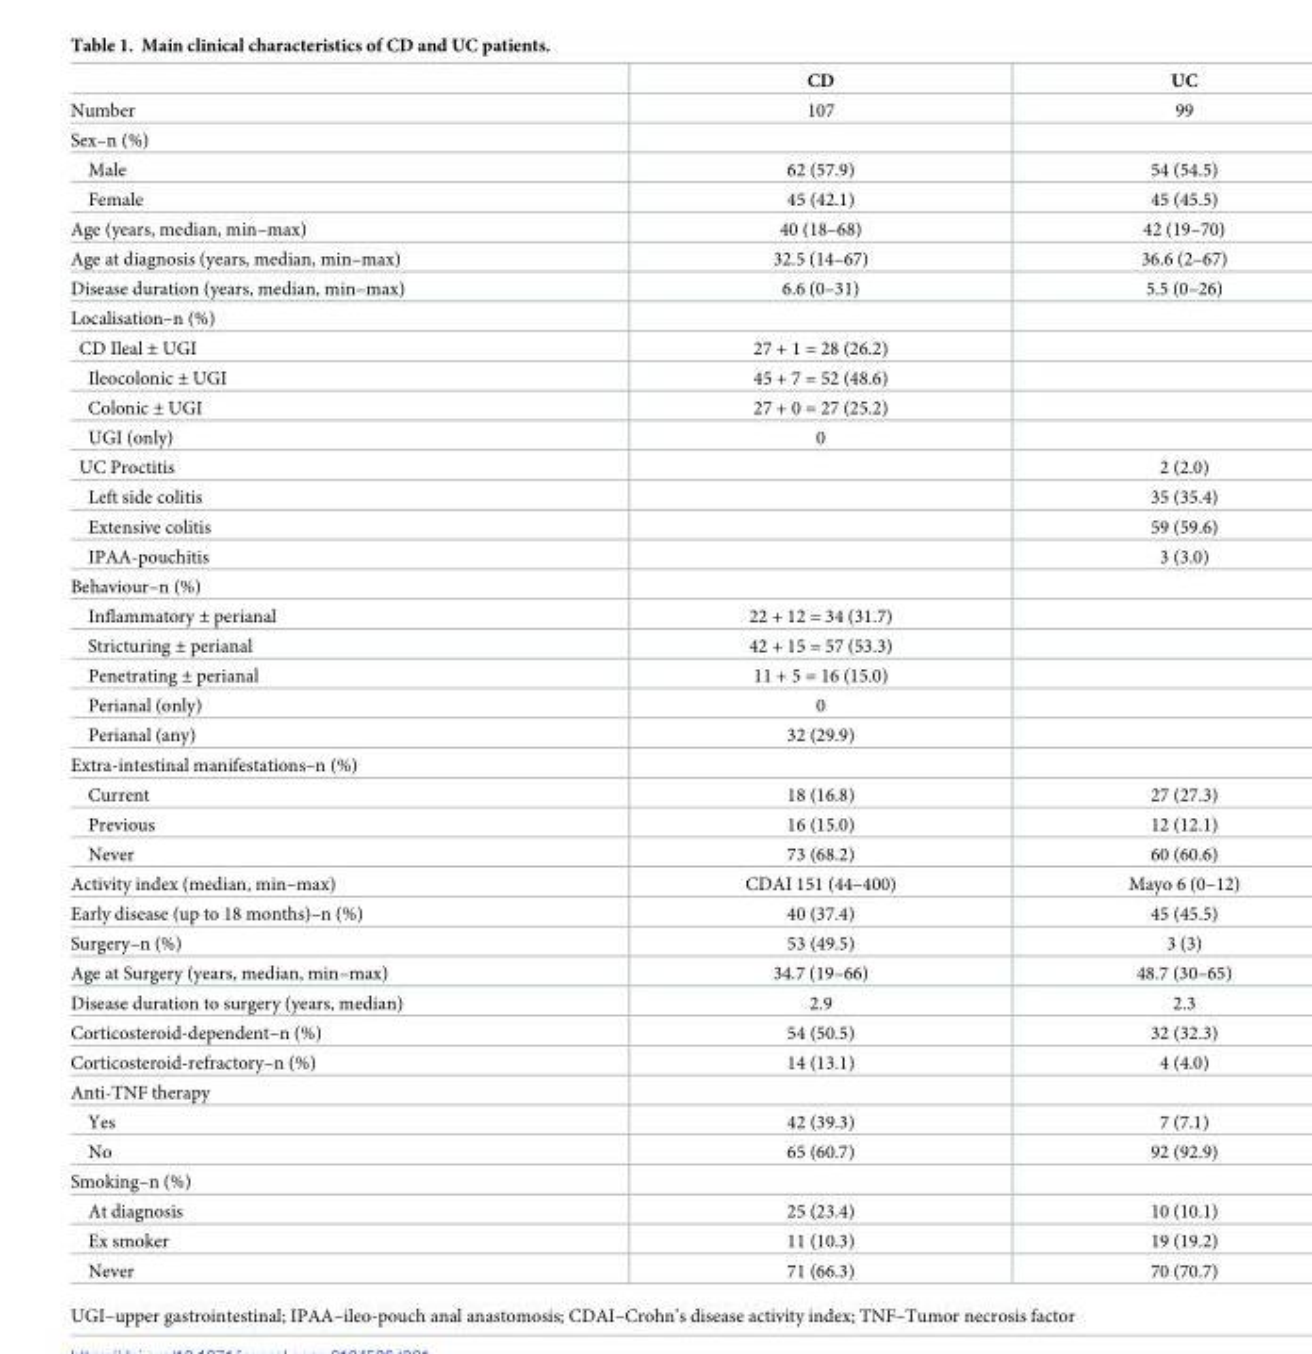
<table><thead><tr><td></td><td>CD</td><td>UC</td></tr></thead><tbody><tr><td>Number</td><td>107</td><td>99</td></tr><tr><td colspan="3">Sex–n (%)</td></tr><tr><td>Male</td><td>62 (57.9)</td><td>54 (54.5)</td></tr><tr><td>Female</td><td>45 (42.1)</td><td>45 (45.5)</td></tr><tr><td>Age (years, median, min–max)</td><td>40 (18–68)</td><td>42 (19–70)</td></tr><tr><td>Age at diagnosis (years, median, min–max)</td><td>32.5 (14–67)</td><td>36.6 (2–67)</td></tr><tr><td>Disease duration (years, median, min–max)</td><td>6.6 (0–31)</td><td>5.5 (0–26)</td></tr><tr><td colspan="3">Localisation–n (%)</td></tr><tr><td>CD Ileal ± UGI</td><td>27 + 1 = 28 (26.2)</td><td></td></tr><tr><td>Ileocolonic ± UGI</td><td>45 + 7 = 52 (48.6)</td><td></td></tr><tr><td>Colonic ± UGI</td><td>27 + 0 = 27 (25.2)</td><td></td></tr><tr><td>UGI (only)</td><td>0</td><td></td></tr><tr><td>UC Proctitis</td><td></td><td>2 (2.0)</td></tr><tr><td>Left side colitis</td><td></td><td>35 (35.4)</td></tr><tr><td>Extensive colitis</td><td></td><td>59 (59.6)</td></tr><tr><td>IPAA-pouchitis</td><td></td><td>3 (3.0)</td></tr><tr><td colspan="3">Behaviour–n (%)</td></tr><tr><td>Inflammatory ± perianal</td><td>22 + 12 = 34 (31.7)</td><td></td></tr><tr><td>Stricturing ± perianal</td><td>42 + 15 = 57 (53.3)</td><td></td></tr><tr><td>Penetrating ± perianal</td><td>11 + 5 = 16 (15.0)</td><td></td></tr><tr><td>Perianal (only)</td><td>0</td><td></td></tr><tr><td>Perianal (any)</td><td>32 (29.9)</td><td></td></tr><tr><td colspan="3">Extra-intestinal manifestations–n (%)</td></tr><tr><td>Current</td><td>18 (16.8)</td><td>27 (27.3)</td></tr><tr><td>Previous</td><td>16 (15.0)</td><td>12 (12.1)</td></tr><tr><td>Never</td><td>73 (68.2)</td><td>60 (60.6)</td></tr><tr><td>Activity index (median, min–max)</td><td>CDAI 151 (44–400)</td><td>Mayo 6 (0–12)</td></tr><tr><td>Early disease (up to 18 months)–n (%)</td><td>40 (37.4)</td><td>45 (45.5)</td></tr><tr><td>Surgery–n (%)</td><td>53 (49.5)</td><td>3 (3)</td></tr><tr><td>Age at Surgery (years, median, min–max)</td><td>34.7 (19–66)</td><td>48.7 (30–65)</td></tr><tr><td>Disease duration to surgery (years, median)</td><td>2.9</td><td>2.3</td></tr><tr><td>Corticosteroid-dependent–n (%)</td><td>54 (50.5)</td><td>32 (32.3)</td></tr><tr><td>Corticosteroid-refractory–n (%)</td><td>14 (13.1)</td><td>4 (4.0)</td></tr><tr><td colspan="3">Anti-TNF therapy</td></tr><tr><td>Yes</td><td>42 (39.3)</td><td>7 (7.1)</td></tr><tr><td>No</td><td>65 (60.7)</td><td>92 (92.9)</td></tr><tr><td colspan="3">Smoking–n (%)</td></tr><tr><td>At diagnosis</td><td>25 (23.4)</td><td>10 (10.1)</td></tr><tr><td>Ex smoker</td><td>11 (10.3)</td><td>19 (19.2)</td></tr><tr><td>Never</td><td>71 (66.3)</td><td>70 (70.7)</td></tr></tbody></table>